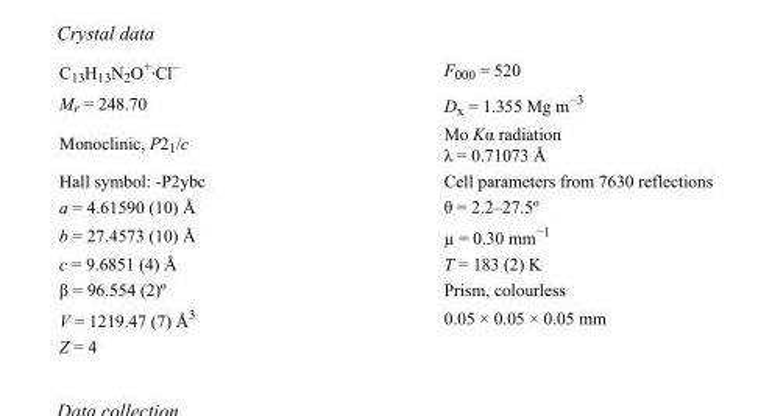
<table><tbody><tr><td>C<sub>13</sub>H<sub>13</sub>N<sub>2</sub>O<sup>+</sup>·Cl<sup>–</sup></td><td>F<sub>000</sub> = 520</td></tr><tr><td>M<sub>r</sub> = 248.70</td><td>D<sub>x</sub> = 1.355 Mg m<sup>−3</sup></td></tr><tr><td>Monoclinic, P2<sub>1</sub>/c</td><td>Mo Kα radiation λ = 0.71073 Å</td></tr><tr><td>Hall symbol: -P2ybc</td><td>Cell parameters from 7630 reflections</td></tr><tr><td>a = 4.61590 (10) Å</td><td>θ = 2.2–27.5º</td></tr><tr><td>b = 27.4573 (10) Å</td><td>µ = 0.30 mm<sup>−1</sup></td></tr><tr><td>c = 9.6851 (4) Å</td><td>T = 183 (2) K</td></tr><tr><td>β = 96.554 (2)º</td><td>Prism, colourless</td></tr><tr><td>V = 1219.47 (7) Å<sup>3</sup></td><td>0.05 × 0.05 × 0.05 mm</td></tr><tr><td>Z = 4</td><td></td></tr></tbody></table>